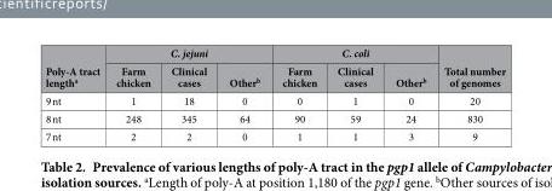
<table><thead><tr><td rowspan="2">Poly-A tract length<sup>a</sup></td><td colspan="3">C. jejuni</td><td colspan="3">C. coli</td><td rowspan="2">Total number of genomes</td></tr><tr><td>Farm chicken</td><td>Clinical cases</td><td>Other<sup>b</sup></td><td>Farm chicken</td><td>Clinical cases</td><td>Other<sup>b</sup></td></tr></thead><tbody><tr><td>9 nt</td><td>1</td><td>18</td><td>0</td><td>0</td><td>1</td><td>0</td><td>20</td></tr><tr><td>8 nt</td><td>248</td><td>345</td><td>64</td><td>90</td><td>59</td><td>24</td><td>830</td></tr><tr><td>7 nt</td><td>2</td><td>2</td><td>0</td><td>1</td><td>1</td><td>3</td><td>9</td></tr></tbody></table>